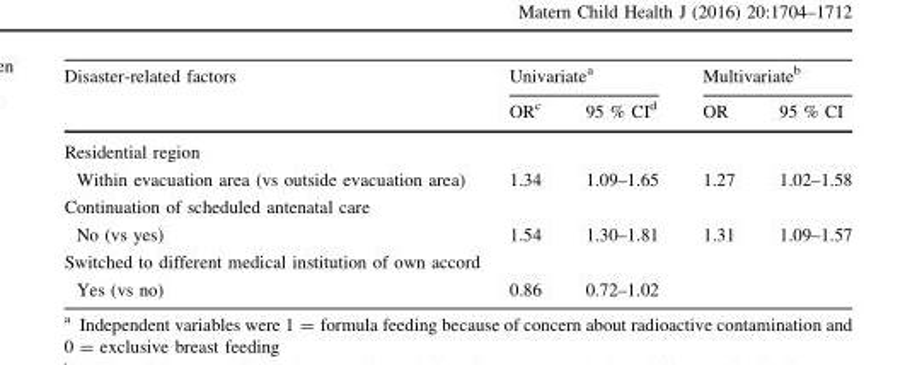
<table><thead><tr><td rowspan="2">Disaster-related factors</td><td colspan="2">Univariate<sup>a</sup></td><td colspan="2">Multivariate<sup>b</sup></td></tr><tr><td>OR<sup>c</sup></td><td>95 % CI<sup>d</sup></td><td>OR</td><td>95 % CI</td></tr></thead><tbody><tr><td colspan="5">Residential region</td></tr><tr><td>Within evacuation area (vs outside evacuation area)</td><td>1.34</td><td>1.09–1.65</td><td>1.27</td><td>1.02–1.58</td></tr><tr><td colspan="5">Continuation of scheduled antenatal care</td></tr><tr><td>No (vs yes)</td><td>1.54</td><td>1.30–1.81</td><td>1.31</td><td>1.09–1.57</td></tr><tr><td colspan="5">Switched to different medical institution of own accord</td></tr><tr><td>Yes (vs no)</td><td>0.86</td><td>0.72–1.02</td><td></td><td></td></tr></tbody></table>